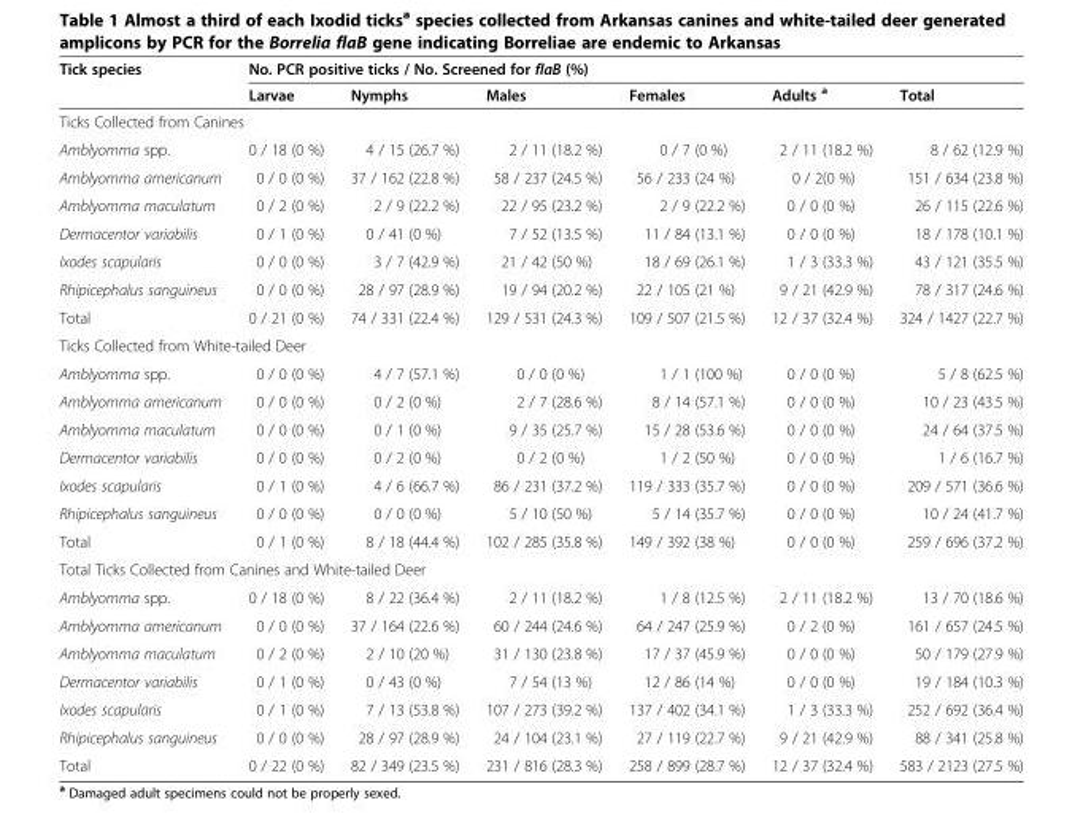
<table><thead><tr><td rowspan="2">Tick species</td><td colspan="6">No. PCR positive ticks / No. Screened for flaB (%)</td></tr><tr><td>Larvae</td><td>Nymphs</td><td>Males</td><td>Females</td><td>Adults <sup>a</sup></td><td>Total</td></tr></thead><tbody><tr><td colspan="7">Ticks Collected from Canines</td></tr><tr><td>Amblyomma spp.</td><td>0 / 18 (0 %)</td><td>4 / 15 (26.7 %)</td><td>2 / 11 (18.2 %)</td><td>0 / 7 (0 %)</td><td>2 / 11 (18.2 %)</td><td>8 / 62 (12.9 %)</td></tr><tr><td>Amblyomma americanum</td><td>0 / 0 (0 %)</td><td>37 / 162 (22.8 %)</td><td>58 / 237 (24.5 %)</td><td>56 / 233 (24 %)</td><td>0 / 2(0 %)</td><td>151 / 634 (23.8 %)</td></tr><tr><td>Amblyomma maculatum</td><td>0 / 2 (0 %)</td><td>2 / 9 (22.2 %)</td><td>22 / 95 (23.2 %)</td><td>2 / 9 (22.2 %)</td><td>0 / 0 (0 %)</td><td>26 / 115 (22.6 %)</td></tr><tr><td>Dermacentor variabilis</td><td>0 / 1 (0 %)</td><td>0 / 41 (0 %)</td><td>7 / 52 (13.5 %)</td><td>11 / 84 (13.1 %)</td><td>0 / 0 (0 %)</td><td>18 / 178 (10.1 %)</td></tr><tr><td>Ixodes scapularis</td><td>0 / 0 (0 %)</td><td>3 / 7 (42.9 %)</td><td>21 / 42 (50 %)</td><td>18 / 69 (26.1 %)</td><td>1 / 3 (33.3 %)</td><td>43 / 121 (35.5 %)</td></tr><tr><td>Rhipicephalus sanguineus</td><td>0 / 0 (0 %)</td><td>28 / 97 (28.9 %)</td><td>19 / 94 (20.2 %)</td><td>22 / 105 (21 %)</td><td>9 / 21 (42.9 %)</td><td>78 / 317 (24.6 %)</td></tr><tr><td>Total</td><td>0 / 21 (0 %)</td><td>74 / 331 (22.4 %)</td><td>129 / 531 (24.3 %)</td><td>109 / 507 (21.5 %)</td><td>12 / 37 (32.4 %)</td><td>324 / 1427 (22.7 %)</td></tr><tr><td colspan="7">Ticks Collected from White-tailed Deer</td></tr><tr><td>Amblyomma spp.</td><td>0 / 0 (0 %)</td><td>4 / 7 (57.1 %)</td><td>0 / 0 (0 %)</td><td>1 / 1 (100 %)</td><td>0 / 0 (0 %)</td><td>5 / 8 (62.5 %)</td></tr><tr><td>Amblyomma americanum</td><td>0 / 0 (0 %)</td><td>0 / 2 (0 %)</td><td>2 / 7 (28.6 %)</td><td>8 / 14 (57.1 %)</td><td>0 / 0 (0 %)</td><td>10 / 23 (43.5 %)</td></tr><tr><td>Amblyomma maculatum</td><td>0 / 0 (0 %)</td><td>0 / 1 (0 %)</td><td>9 / 35 (25.7 %)</td><td>15 / 28 (53.6 %)</td><td>0 / 0 (0 %)</td><td>24 / 64 (37.5 %)</td></tr><tr><td>Dermacentor variabilis</td><td>0 / 0 (0 %)</td><td>0 / 2 (0 %)</td><td>0 / 2 (0 %)</td><td>1 / 2 (50 %)</td><td>0 / 0 (0 %)</td><td>1 / 6 (16.7 %)</td></tr><tr><td>Ixodes scapularis</td><td>0 / 1 (0 %)</td><td>4 / 6 (66.7 %)</td><td>86 / 231 (37.2 %)</td><td>119 / 333 (35.7 %)</td><td>0 / 0 (0 %)</td><td>209 / 571 (36.6 %)</td></tr><tr><td>Rhipicephalus sanguineus</td><td>0 / 0 (0 %)</td><td>0 / 0 (0 %)</td><td>5 / 10 (50 %)</td><td>5 / 14 (35.7 %)</td><td>0 / 0 (0 %)</td><td>10 / 24 (41.7 %)</td></tr><tr><td>Total</td><td>0 / 1 (0 %)</td><td>8 / 18 (44.4 %)</td><td>102 / 285 (35.8 %)</td><td>149 / 392 (38 %)</td><td>0 / 0 (0 %)</td><td>259 / 696 (37.2 %)</td></tr><tr><td colspan="7">Total Ticks Collected from Canines and White-tailed Deer</td></tr><tr><td>Amblyomma spp.</td><td>0 / 18 (0 %)</td><td>8 / 22 (36.4 %)</td><td>2 / 11 (18.2 %)</td><td>1 / 8 (12.5 %)</td><td>2 / 11 (18.2 %)</td><td>13 / 70 (18.6 %)</td></tr><tr><td>Amblyomma americanum</td><td>0 / 0 (0 %)</td><td>37 / 164 (22.6 %)</td><td>60 / 244 (24.6 %)</td><td>64 / 247 (25.9 %)</td><td>0 / 2 (0 %)</td><td>161 / 657 (24.5 %)</td></tr><tr><td>Amblyomma maculatum</td><td>0 / 2 (0 %)</td><td>2 / 10 (20 %)</td><td>31 / 130 (23.8 %)</td><td>17 / 37 (45.9 %)</td><td>0 / 0 (0 %)</td><td>50 / 179 (27.9 %)</td></tr><tr><td>Dermacentor variabilis</td><td>0 / 1 (0 %)</td><td>0 / 43 (0 %)</td><td>7 / 54 (13 %)</td><td>12 / 86 (14 %)</td><td>0 / 0 (0 %)</td><td>19 / 184 (10.3 %)</td></tr><tr><td>Ixodes scapularis</td><td>0 / 1 (0 %)</td><td>7 / 13 (53.8 %)</td><td>107 / 273 (39.2 %)</td><td>137 / 402 (34.1 %)</td><td>1 / 3 (33.3 %)</td><td>252 / 692 (36.4 %)</td></tr><tr><td>Rhipicephalus sanguineus</td><td>0 / 0 (0 %)</td><td>28 / 97 (28.9 %)</td><td>24 / 104 (23.1 %)</td><td>27 / 119 (22.7 %)</td><td>9 / 21 (42.9 %)</td><td>88 / 341 (25.8 %)</td></tr><tr><td>Total</td><td>0 / 22 (0 %)</td><td>82 / 349 (23.5 %)</td><td>231 / 816 (28.3 %)</td><td>258 / 899 (28.7 %)</td><td>12 / 37 (32.4 %)</td><td>583 / 2123 (27.5 %)</td></tr></tbody></table>